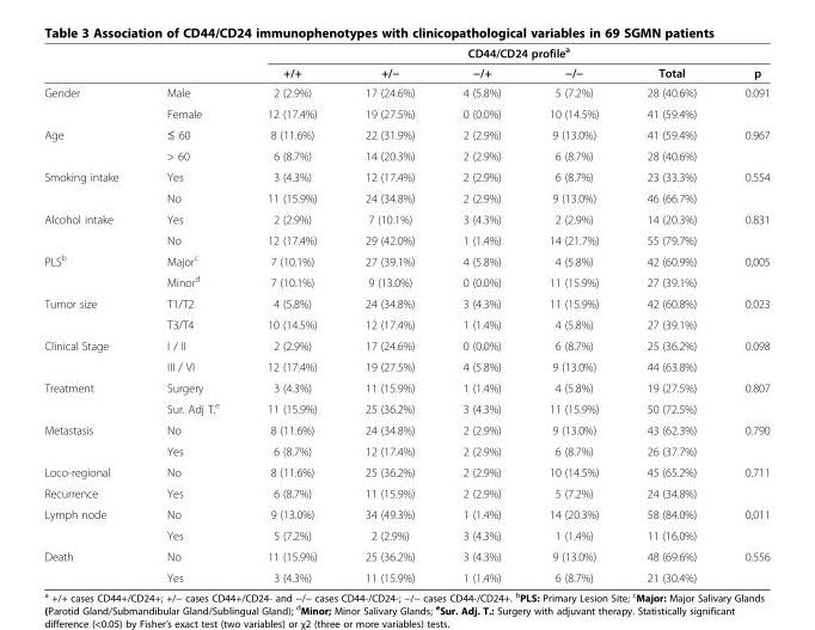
<table><thead><tr><td rowspan="2"></td><td rowspan="2"></td><td colspan="6">CD44/CD24 profile<sup>a</sup></td></tr><tr><td>+/+</td><td>+/−</td><td>−/+</td><td>−/−</td><td>Total</td><td>p</td></tr></thead><tbody><tr><td rowspan="2">Gender</td><td>Male</td><td>2 (2.9%)</td><td>17 (24.6%)</td><td>4 (5.8%)</td><td>5 (7.2%)</td><td>28 (40.6%)</td><td>0.091</td></tr><tr><td>Female</td><td>12 (17.4%)</td><td>19 (27.5%)</td><td>0 (0.0%)</td><td>10 (14.5%)</td><td>41 (59.4%)</td><td></td></tr><tr><td rowspan="2">Age</td><td>≤ 60</td><td>8 (11.6%)</td><td>22 (31.9%)</td><td>2 (2.9%)</td><td>9 (13.0%)</td><td>41 (59.4%)</td><td>0.967</td></tr><tr><td>&gt; 60</td><td>6 (8.7%)</td><td>14 (20.3%)</td><td>2 (2.9%)</td><td>6 (8.7%)</td><td>28 (40.6%)</td><td></td></tr><tr><td rowspan="2">Smoking intake</td><td>Yes</td><td>3 (4.3%)</td><td>12 (17.4%)</td><td>2 (2.9%)</td><td>6 (8.7%)</td><td>23 (33.3%)</td><td>0.554</td></tr><tr><td>No</td><td>11 (15.9%)</td><td>24 (34.8%)</td><td>2 (2.9%)</td><td>9 (13.0%)</td><td>46 (66.7%)</td><td></td></tr><tr><td rowspan="2">Alcohol intake</td><td>Yes</td><td>2 (2.9%)</td><td>7 (10.1%)</td><td>3 (4.3%)</td><td>2 (2.9%)</td><td>14 (20.3%)</td><td>0.831</td></tr><tr><td>No</td><td>12 (17.4%)</td><td>29 (42.0%)</td><td>1 (1.4%)</td><td>14 (21.7%)</td><td>55 (79.7%)</td><td></td></tr><tr><td rowspan="2">PLS<sup>b</sup></td><td>Major<sup>c</sup></td><td>7 (10.1%)</td><td>27 (39.1%)</td><td>4 (5.8%)</td><td>4 (5.8%)</td><td>42 (60.9%)</td><td>0,005</td></tr><tr><td>Minor<sup>d</sup></td><td>7 (10.1%)</td><td>9 (13.0%)</td><td>0 (0.0%)</td><td>11 (15.9%)</td><td>27 (39.1%)</td><td></td></tr><tr><td rowspan="2">Tumor size</td><td>T1/T2</td><td>4 (5.8%)</td><td>24 (34.8%)</td><td>3 (4.3%)</td><td>11 (15.9%)</td><td>42 (60.8%)</td><td>0.023</td></tr><tr><td>T3/T4</td><td>10 (14.5%)</td><td>12 (17.4%)</td><td>1 (1.4%)</td><td>4 (5.8%)</td><td>27 (39.1%)</td><td></td></tr><tr><td rowspan="2">Clinical Stage</td><td>I / II</td><td>2 (2.9%)</td><td>17 (24.6%)</td><td>0 (0.0%)</td><td>6 (8.7%)</td><td>25 (36.2%)</td><td>0.098</td></tr><tr><td>III / VI</td><td>12 (17.4%)</td><td>19 (27.5%)</td><td>4 (5.8%)</td><td>9 (13.0%)</td><td>44 (63.8%)</td><td></td></tr><tr><td rowspan="2">Treatment</td><td>Surgery</td><td>3 (4.3%)</td><td>11 (15.9%)</td><td>1 (1.4%)</td><td>4 (5.8%)</td><td>19 (27.5%)</td><td>0.807</td></tr><tr><td>Sur. Adj T.<sup>e</sup></td><td>11 (15.9%)</td><td>25 (36.2%)</td><td>3 (4.3%)</td><td>11 (15.9%)</td><td>50 (72.5%)</td><td></td></tr><tr><td rowspan="2">Metastasis</td><td>No</td><td>8 (11.6%)</td><td>24 (34.8%)</td><td>2 (2.9%)</td><td>9 (13.0%)</td><td>43 (62.3%)</td><td>0.790</td></tr><tr><td>Yes</td><td>6 (8.7%)</td><td>12 (17.4%)</td><td>2 (2.9%)</td><td>6 (8.7%)</td><td>26 (37.7%)</td><td></td></tr><tr><td>Loco-regional</td><td>No</td><td>8 (11.6%)</td><td>25 (36.2%)</td><td>2 (2.9%)</td><td>10 (14.5%)</td><td>45 (65.2%)</td><td>0.711</td></tr><tr><td>Recurrence</td><td>Yes</td><td>6 (8.7%)</td><td>11 (15.9%)</td><td>2 (2.9%)</td><td>5 (7.2%)</td><td>24 (34.8%)</td><td></td></tr><tr><td rowspan="2">Lymph node</td><td>No</td><td>9 (13.0%)</td><td>34 (49.3%)</td><td>1 (1.4%)</td><td>14 (20.3%)</td><td>58 (84.0%)</td><td>0,011</td></tr><tr><td>Yes</td><td>5 (7.2%)</td><td>2 (2.9%)</td><td>3 (4.3%)</td><td>1 (1.4%)</td><td>11 (16.0%)</td><td></td></tr><tr><td rowspan="2">Death</td><td>No</td><td>11 (15.9%)</td><td>25 (36.2%)</td><td>3 (4.3%)</td><td>9 (13.0%)</td><td>48 (69.6%)</td><td>0.556</td></tr><tr><td>Yes</td><td>3 (4.3%)</td><td>11 (15.9%)</td><td>1 (1.4%)</td><td>6 (8.7%)</td><td>21 (30.4%)</td><td></td></tr></tbody></table>